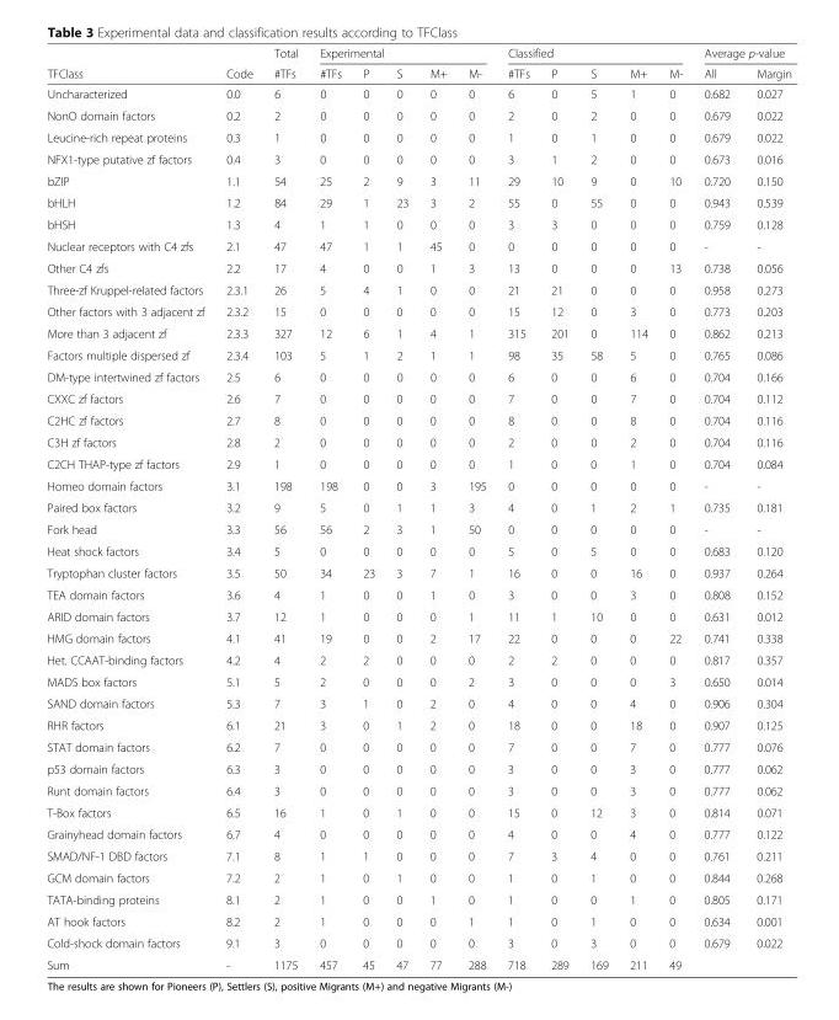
<table><thead><tr><td rowspan="2">TFClass</td><td rowspan="2">Code</td><td rowspan="2">Total #TFs</td><td colspan="5">Experimental</td><td colspan="5">Classified</td><td colspan="2">Average p-value</td></tr><tr><td>#TFs</td><td>P</td><td>S</td><td>M+</td><td>M-</td><td>#TFs</td><td>P</td><td>S</td><td>M+</td><td>M-</td><td>All</td><td>Margin</td></tr></thead><tbody><tr><td>Uncharacterized</td><td>0.0</td><td>6</td><td>0</td><td>0</td><td>0</td><td>0</td><td>0</td><td>6</td><td>0</td><td>5</td><td>1</td><td>0</td><td>0.682</td><td>0.027</td></tr><tr><td>NonO domain factors</td><td>0.2</td><td>2</td><td>0</td><td>0</td><td>0</td><td>0</td><td>0</td><td>2</td><td>0</td><td>2</td><td>0</td><td>0</td><td>0.679</td><td>0.022</td></tr><tr><td>Leucine-rich repeat proteins</td><td>0.3</td><td>1</td><td>0</td><td>0</td><td>0</td><td>0</td><td>0</td><td>1</td><td>0</td><td>1</td><td>0</td><td>0</td><td>0.679</td><td>0.022</td></tr><tr><td>NFX1-type putative zf factors</td><td>0.4</td><td>3</td><td>0</td><td>0</td><td>0</td><td>0</td><td>0</td><td>3</td><td>1</td><td>2</td><td>0</td><td>0</td><td>0.673</td><td>0.016</td></tr><tr><td>bZIP</td><td>1.1</td><td>54</td><td>25</td><td>2</td><td>9</td><td>3</td><td>11</td><td>29</td><td>10</td><td>9</td><td>0</td><td>10</td><td>0.720</td><td>0.150</td></tr><tr><td>bHLH</td><td>1.2</td><td>84</td><td>29</td><td>1</td><td>23</td><td>3</td><td>2</td><td>55</td><td>0</td><td>55</td><td>0</td><td>0</td><td>0.943</td><td>0.539</td></tr><tr><td>bHSH</td><td>1.3</td><td>4</td><td>1</td><td>1</td><td>0</td><td>0</td><td>0</td><td>3</td><td>3</td><td>0</td><td>0</td><td>0</td><td>0.759</td><td>0.128</td></tr><tr><td>Nuclear receptors with C4 zfs</td><td>2.1</td><td>47</td><td>47</td><td>1</td><td>1</td><td>45</td><td>0</td><td>0</td><td>0</td><td>0</td><td>0</td><td>0</td><td>-</td><td>-</td></tr><tr><td>Other C4 zfs</td><td>2.2</td><td>17</td><td>4</td><td>0</td><td>0</td><td>1</td><td>3</td><td>13</td><td>0</td><td>0</td><td>0</td><td>13</td><td>0.738</td><td>0.056</td></tr><tr><td>Three-zf Kruppel-related factors</td><td>2.3.1</td><td>26</td><td>5</td><td>4</td><td>1</td><td>0</td><td>0</td><td>21</td><td>21</td><td>0</td><td>0</td><td>0</td><td>0.958</td><td>0.273</td></tr><tr><td>Other factors with 3 adjacent zf</td><td>2.3.2</td><td>15</td><td>0</td><td>0</td><td>0</td><td>0</td><td>0</td><td>15</td><td>12</td><td>0</td><td>3</td><td>0</td><td>0.773</td><td>0.203</td></tr><tr><td>More than 3 adjacent zf</td><td>2.3.3</td><td>327</td><td>12</td><td>6</td><td>1</td><td>4</td><td>1</td><td>315</td><td>201</td><td>0</td><td>114</td><td>0</td><td>0.862</td><td>0.213</td></tr><tr><td>Factors multiple dispersed zf</td><td>2.3.4</td><td>103</td><td>5</td><td>1</td><td>2</td><td>1</td><td>1</td><td>98</td><td>35</td><td>58</td><td>5</td><td>0</td><td>0.765</td><td>0.086</td></tr><tr><td>DM-type intertwined zf factors</td><td>2.5</td><td>6</td><td>0</td><td>0</td><td>0</td><td>0</td><td>0</td><td>6</td><td>0</td><td>0</td><td>6</td><td>0</td><td>0.704</td><td>0.166</td></tr><tr><td>CXXC zf factors</td><td>2.6</td><td>7</td><td>0</td><td>0</td><td>0</td><td>0</td><td>0</td><td>7</td><td>0</td><td>0</td><td>7</td><td>0</td><td>0.704</td><td>0.112</td></tr><tr><td>C2HC zf factors</td><td>2.7</td><td>8</td><td>0</td><td>0</td><td>0</td><td>0</td><td>0</td><td>8</td><td>0</td><td>0</td><td>8</td><td>0</td><td>0.704</td><td>0.116</td></tr><tr><td>C3H zf factors</td><td>2.8</td><td>2</td><td>0</td><td>0</td><td>0</td><td>0</td><td>0</td><td>2</td><td>0</td><td>0</td><td>2</td><td>0</td><td>0.704</td><td>0.116</td></tr><tr><td>C2CH THAP-type zf factors</td><td>2.9</td><td>1</td><td>0</td><td>0</td><td>0</td><td>0</td><td>0</td><td>1</td><td>0</td><td>0</td><td>1</td><td>0</td><td>0.704</td><td>0.084</td></tr><tr><td>Homeo domain factors</td><td>3.1</td><td>198</td><td>198</td><td>0</td><td>0</td><td>3</td><td>195</td><td>0</td><td>0</td><td>0</td><td>0</td><td>0</td><td>-</td><td>-</td></tr><tr><td>Paired box factors</td><td>3.2</td><td>9</td><td>5</td><td>0</td><td>1</td><td>1</td><td>3</td><td>4</td><td>0</td><td>1</td><td>2</td><td>1</td><td>0.735</td><td>0.181</td></tr><tr><td>Fork head</td><td>3.3</td><td>56</td><td>56</td><td>2</td><td>3</td><td>1</td><td>50</td><td>0</td><td>0</td><td>0</td><td>0</td><td>0</td><td>-</td><td>-</td></tr><tr><td>Heat shock factors</td><td>3.4</td><td>5</td><td>0</td><td>0</td><td>0</td><td>0</td><td>0</td><td>5</td><td>0</td><td>5</td><td>0</td><td>0</td><td>0.683</td><td>0.120</td></tr><tr><td>Tryptophan cluster factors</td><td>3.5</td><td>50</td><td>34</td><td>23</td><td>3</td><td>7</td><td>1</td><td>16</td><td>0</td><td>0</td><td>16</td><td>0</td><td>0.937</td><td>0.264</td></tr><tr><td>TEA domain factors</td><td>3.6</td><td>4</td><td>1</td><td>0</td><td>0</td><td>1</td><td>0</td><td>3</td><td>0</td><td>0</td><td>3</td><td>0</td><td>0.808</td><td>0.152</td></tr><tr><td>ARID domain factors</td><td>3.7</td><td>12</td><td>1</td><td>0</td><td>0</td><td>0</td><td>1</td><td>11</td><td>1</td><td>10</td><td>0</td><td>0</td><td>0.631</td><td>0.012</td></tr><tr><td>HMG domain factors</td><td>4.1</td><td>41</td><td>19</td><td>0</td><td>0</td><td>2</td><td>17</td><td>22</td><td>0</td><td>0</td><td>0</td><td>22</td><td>0.741</td><td>0.338</td></tr><tr><td>Het. CCAAT-binding factors</td><td>4.2</td><td>4</td><td>2</td><td>2</td><td>0</td><td>0</td><td>0</td><td>2</td><td>2</td><td>0</td><td>0</td><td>0</td><td>0.817</td><td>0.357</td></tr><tr><td>MADS box factors</td><td>5.1</td><td>5</td><td>2</td><td>0</td><td>0</td><td>0</td><td>2</td><td>3</td><td>0</td><td>0</td><td>0</td><td>3</td><td>0.650</td><td>0.014</td></tr><tr><td>SAND domain factors</td><td>5.3</td><td>7</td><td>3</td><td>1</td><td>0</td><td>2</td><td>0</td><td>4</td><td>0</td><td>0</td><td>4</td><td>0</td><td>0.906</td><td>0.304</td></tr><tr><td>RHR factors</td><td>6.1</td><td>21</td><td>3</td><td>0</td><td>1</td><td>2</td><td>0</td><td>18</td><td>0</td><td>0</td><td>18</td><td>0</td><td>0.907</td><td>0.125</td></tr><tr><td>STAT domain factors</td><td>6.2</td><td>7</td><td>0</td><td>0</td><td>0</td><td>0</td><td>0</td><td>7</td><td>0</td><td>0</td><td>7</td><td>0</td><td>0.777</td><td>0.076</td></tr><tr><td>p53 domain factors</td><td>6.3</td><td>3</td><td>0</td><td>0</td><td>0</td><td>0</td><td>0</td><td>3</td><td>0</td><td>0</td><td>3</td><td>0</td><td>0.777</td><td>0.062</td></tr><tr><td>Runt domain factors</td><td>6.4</td><td>3</td><td>0</td><td>0</td><td>0</td><td>0</td><td>0</td><td>3</td><td>0</td><td>0</td><td>3</td><td>0</td><td>0.777</td><td>0.062</td></tr><tr><td>T-Box factors</td><td>6.5</td><td>16</td><td>1</td><td>0</td><td>1</td><td>0</td><td>0</td><td>15</td><td>0</td><td>12</td><td>3</td><td>0</td><td>0.814</td><td>0.071</td></tr><tr><td>Grainyhead domain factors</td><td>6.7</td><td>4</td><td>0</td><td>0</td><td>0</td><td>0</td><td>0</td><td>4</td><td>0</td><td>0</td><td>4</td><td>0</td><td>0.777</td><td>0.122</td></tr><tr><td>SMAD/NF-1 DBD factors</td><td>7.1</td><td>8</td><td>1</td><td>1</td><td>0</td><td>0</td><td>0</td><td>7</td><td>3</td><td>4</td><td>0</td><td>0</td><td>0.761</td><td>0.211</td></tr><tr><td>GCM domain factors</td><td>7.2</td><td>2</td><td>1</td><td>0</td><td>1</td><td>0</td><td>0</td><td>1</td><td>0</td><td>1</td><td>0</td><td>0</td><td>0.844</td><td>0.268</td></tr><tr><td>TATA-binding proteins</td><td>8.1</td><td>2</td><td>1</td><td>0</td><td>0</td><td>1</td><td>0</td><td>1</td><td>0</td><td>0</td><td>1</td><td>0</td><td>0.805</td><td>0.171</td></tr><tr><td>AT hook factors</td><td>8.2</td><td>2</td><td>1</td><td>0</td><td>0</td><td>0</td><td>1</td><td>1</td><td>0</td><td>1</td><td>0</td><td>0</td><td>0.634</td><td>0.001</td></tr><tr><td>Cold-shock domain factors</td><td>9.1</td><td>3</td><td>0</td><td>0</td><td>0</td><td>0</td><td>0</td><td>3</td><td>0</td><td>3</td><td>0</td><td>0</td><td>0.679</td><td>0.022</td></tr><tr><td>Sum</td><td>-</td><td>1175</td><td>457</td><td>45</td><td>47</td><td>77</td><td>288</td><td>718</td><td>289</td><td>169</td><td>211</td><td>49</td><td></td><td></td></tr></tbody></table>